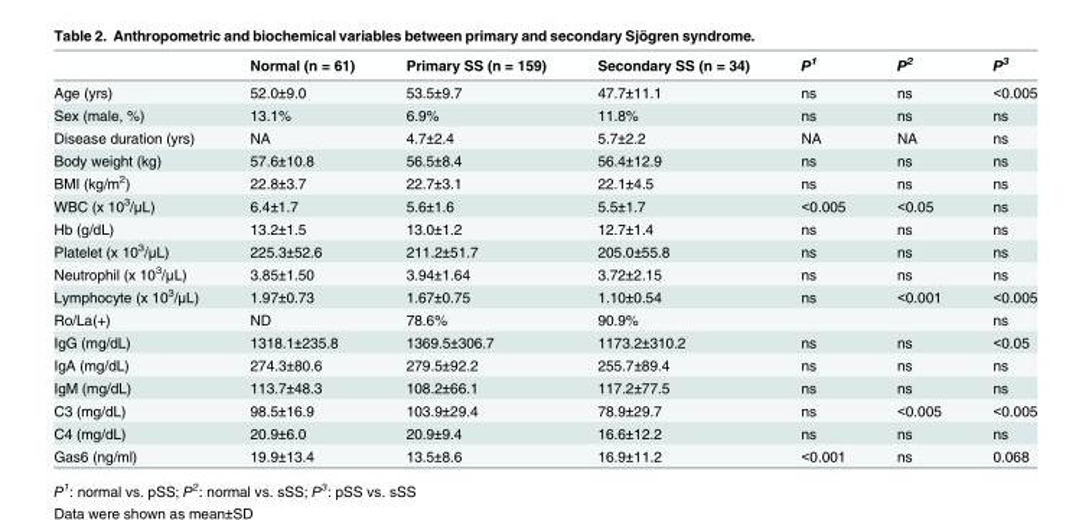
<table><thead><tr><td></td><td>Normal (n = 61)</td><td>Primary SS (n = 159)</td><td>Secondary SS (n = 34)</td><td>P<sup>1</sup></td><td>P<sup>2</sup></td><td>P<sup>3</sup></td></tr></thead><tbody><tr><td>Age (yrs)</td><td>52.0±9.0</td><td>53.5±9.7</td><td>47.7±11.1</td><td>ns</td><td>ns</td><td>&lt;0.005</td></tr><tr><td>Sex (male, %)</td><td>13.1%</td><td>6.9%</td><td>11.8%</td><td>ns</td><td>ns</td><td>ns</td></tr><tr><td>Disease duration (yrs)</td><td>NA</td><td>4.7±2.4</td><td>5.7±2.2</td><td>NA</td><td>NA</td><td>ns</td></tr><tr><td>Body weight (kg)</td><td>57.6±10.8</td><td>56.5±8.4</td><td>56.4±12.9</td><td>ns</td><td>ns</td><td>ns</td></tr><tr><td>BMI (kg/m<sup>2</sup>)</td><td>22.8±3.7</td><td>22.7±3.1</td><td>22.1±4.5</td><td>ns</td><td>ns</td><td>ns</td></tr><tr><td>WBC (x 10<sup>3</sup>/μL)</td><td>6.4±1.7</td><td>5.6±1.6</td><td>5.5±1.7</td><td>&lt;0.005</td><td>&lt;0.05</td><td>ns</td></tr><tr><td>Hb (g/dL)</td><td>13.2±1.5</td><td>13.0±1.2</td><td>12.7±1.4</td><td>ns</td><td>ns</td><td>ns</td></tr><tr><td>Platelet (x 10<sup>3</sup>/μL)</td><td>225.3±52.6</td><td>211.2±51.7</td><td>205.0±55.8</td><td>ns</td><td>ns</td><td>ns</td></tr><tr><td>Neutrophil (x 10<sup>3</sup>/μL)</td><td>3.85±1.50</td><td>3.94±1.64</td><td>3.72±2.15</td><td>ns</td><td>ns</td><td>ns</td></tr><tr><td>Lymphocyte (x 10<sup>3</sup>/μL)</td><td>1.97±0.73</td><td>1.67±0.75</td><td>1.10±0.54</td><td>ns</td><td>&lt;0.001</td><td>&lt;0.005</td></tr><tr><td>Ro/La(+)</td><td>ND</td><td>78.6%</td><td>90.9%</td><td></td><td></td><td>ns</td></tr><tr><td>IgG (mg/dL)</td><td>1318.1±235.8</td><td>1369.5±306.7</td><td>1173.2±310.2</td><td>ns</td><td>ns</td><td>&lt;0.05</td></tr><tr><td>IgA (mg/dL)</td><td>274.3±80.6</td><td>279.5±92.2</td><td>255.7±89.4</td><td>ns</td><td>ns</td><td>ns</td></tr><tr><td>IgM (mg/dL)</td><td>113.7±48.3</td><td>108.2±66.1</td><td>117.2±77.5</td><td>ns</td><td>ns</td><td>ns</td></tr><tr><td>C3 (mg/dL)</td><td>98.5±16.9</td><td>103.9±29.4</td><td>78.9±29.7</td><td>ns</td><td>&lt;0.005</td><td>&lt;0.005</td></tr><tr><td>C4 (mg/dL)</td><td>20.9±6.0</td><td>20.9±9.4</td><td>16.6±12.2</td><td>ns</td><td>ns</td><td>ns</td></tr><tr><td>Gas6 (ng/ml)</td><td>19.9±13.4</td><td>13.5±8.6</td><td>16.9±11.2</td><td>&lt;0.001</td><td>ns</td><td>0.068</td></tr></tbody></table>